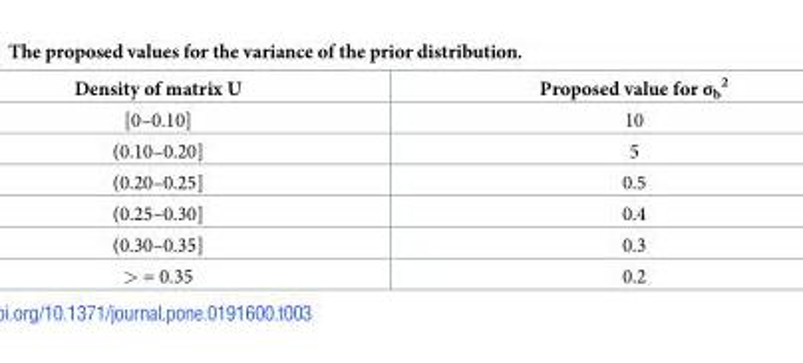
<table><thead><tr><td>Density of matrix U</td><td>Proposed value for σ<sub>b</sub> <sup>2</sup></td></tr></thead><tbody><tr><td>[0–0.10]</td><td>10</td></tr><tr><td>(0.10–0.20]</td><td>5</td></tr><tr><td>(0.20–0.25]</td><td>0.5</td></tr><tr><td>(0.25–0.30]</td><td>0.4</td></tr><tr><td>(0.30–0.35]</td><td>0.3</td></tr><tr><td>&gt; = 0.35</td><td>0.2</td></tr></tbody></table>